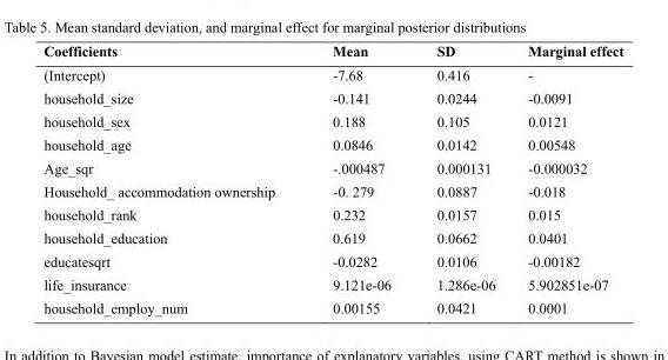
<table><thead><tr><td>Coefficients</td><td>Mean</td><td>SD</td><td>Marginal effect</td></tr></thead><tbody><tr><td>(Intercept)</td><td>-7.68</td><td>0.416</td><td>-</td></tr><tr><td>household_size</td><td>-0.141</td><td>0.0244</td><td>-0.0091</td></tr><tr><td>household_sex</td><td>0.188</td><td>0.105</td><td>0.0121</td></tr><tr><td>household_age</td><td>0.0846</td><td>0.0142</td><td>0.00548</td></tr><tr><td>Age_sqr</td><td>-.000487</td><td>0.000131</td><td>-0.000032</td></tr><tr><td>Household_ accommodation ownership</td><td>-0. 279</td><td>0.0887</td><td>-0.018</td></tr><tr><td>household_rank</td><td>0.232</td><td>0.0157</td><td>0.015</td></tr><tr><td>household_education</td><td>0.619</td><td>0.0662</td><td>0.0401</td></tr><tr><td>educatesqrt</td><td>-0.0282</td><td>0.0106</td><td>-0.00182</td></tr><tr><td>life_insurance</td><td>9.121e-06</td><td>1.286e-06</td><td>5.902851e-07</td></tr><tr><td>household_employ_num</td><td>0.00155</td><td>0.0421</td><td>0.0001</td></tr></tbody></table>